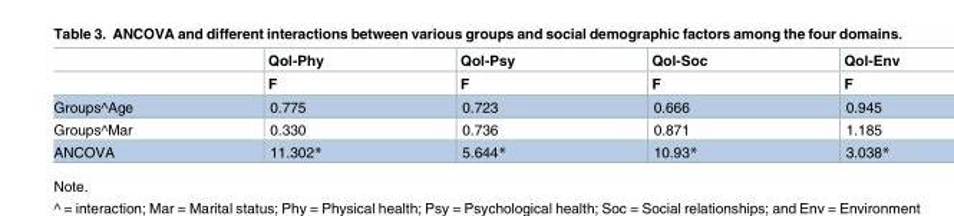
<table><thead><tr><td rowspan="2"></td><td rowspan="2">Qol-Phy F</td><td rowspan="2">Qol-Psy F</td><td rowspan="2">Qol-Soc F</td><td rowspan="2">Qol-Env F</td></tr><tr></tr></thead><tbody><tr><td>Groups^Age</td><td>0.775</td><td>0.723</td><td>0.666</td><td>0.945</td></tr><tr><td>Groups^Mar</td><td>0.330</td><td>0.736</td><td>0.871</td><td>1.185</td></tr><tr><td>ANCOVA</td><td>11.302*</td><td>5.644*</td><td>10.93*</td><td>3.038*</td></tr></tbody></table>